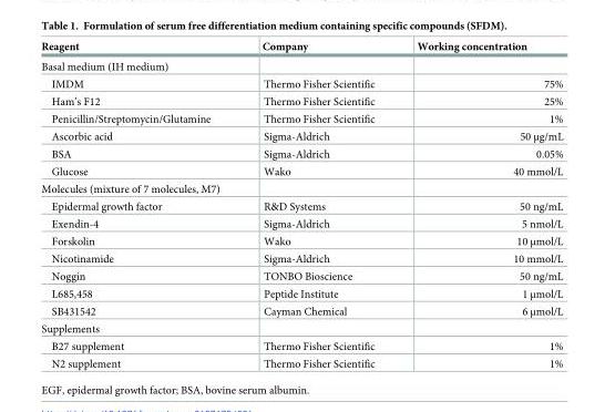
<table><thead><tr><td>Reagent</td><td>Company</td><td>Working concentration</td></tr></thead><tbody><tr><td colspan="3">Basal medium (IH medium)</td></tr><tr><td>IMDM</td><td>Thermo Fisher Scientific</td><td>75%</td></tr><tr><td>Ham’s F12</td><td>Thermo Fisher Scientific</td><td>25%</td></tr><tr><td>Penicillin/Streptomycin/Glutamine</td><td>Thermo Fisher Scientific</td><td>1%</td></tr><tr><td>Ascorbic acid</td><td>Sigma-Aldrich</td><td>50 μg/mL</td></tr><tr><td>BSA</td><td>Sigma-Aldrich</td><td>0.05%</td></tr><tr><td>Glucose</td><td>Wako</td><td>40 mmol/L</td></tr><tr><td colspan="3">Molecules (mixture of 7 molecules, M7)</td></tr><tr><td>Epidermal growth factor</td><td>R&amp;D Systems</td><td>50 ng/mL</td></tr><tr><td>Exendin-4</td><td>Sigma-Aldrich</td><td>5 nmol/L</td></tr><tr><td>Forskolin</td><td>Wako</td><td>10 μmol/L</td></tr><tr><td>Nicotinamide</td><td>Sigma-Aldrich</td><td>10 mmol/L</td></tr><tr><td>Noggin</td><td>TONBO Bioscience</td><td>50 ng/mL</td></tr><tr><td>L685,458</td><td>Peptide Institute</td><td>1 μmol/L</td></tr><tr><td>SB431542</td><td>Cayman Chemical</td><td>6 μmol/L</td></tr><tr><td colspan="3">Supplements</td></tr><tr><td>B27 supplement</td><td>Thermo Fisher Scientific</td><td>1%</td></tr><tr><td>N2 supplement</td><td>Thermo Fisher Scientific</td><td>1%</td></tr></tbody></table>